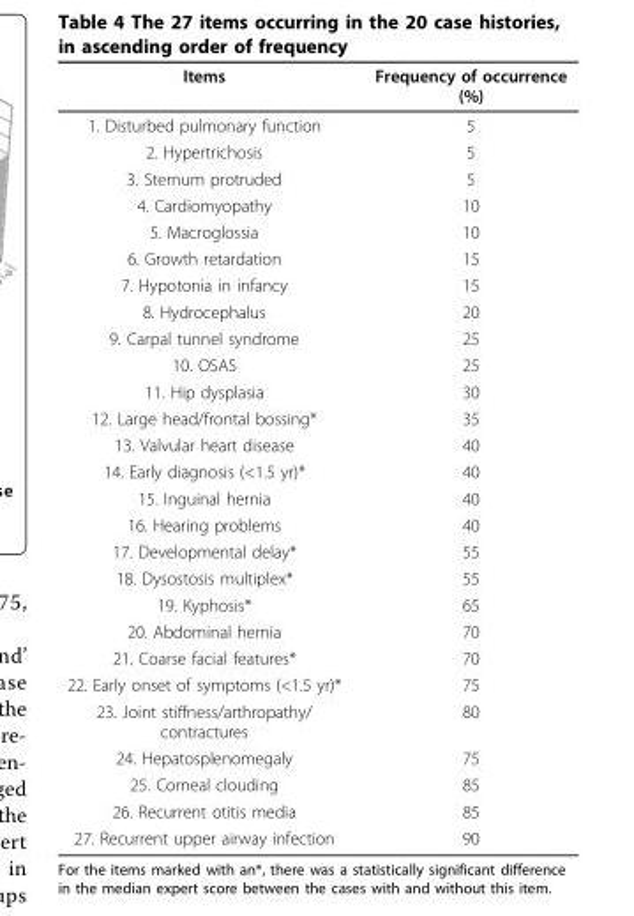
<table><thead><tr><td>Items</td><td>Frequency of occurrence (%)</td></tr></thead><tbody><tr><td>1. Disturbed pulmonary function</td><td>5</td></tr><tr><td>2. Hypertrichosis</td><td>5</td></tr><tr><td>3. Sternum protruded</td><td>5</td></tr><tr><td>4. Cardiomyopathy</td><td>10</td></tr><tr><td>5. Macroglossia</td><td>10</td></tr><tr><td>6. Growth retardation</td><td>15</td></tr><tr><td>7. Hypotonia in infancy</td><td>15</td></tr><tr><td>8. Hydrocephalus</td><td>20</td></tr><tr><td>9. Carpal tunnel syndrome</td><td>25</td></tr><tr><td>10. OSAS</td><td>25</td></tr><tr><td>11. Hip dysplasia</td><td>30</td></tr><tr><td>12. Large head/frontal bossing*</td><td>35</td></tr><tr><td>13. Valvular heart disease</td><td>40</td></tr><tr><td>14. Early diagnosis (&lt;1.5 yr)*</td><td>40</td></tr><tr><td>15. Inguinal hernia</td><td>40</td></tr><tr><td>16. Hearing problems</td><td>40</td></tr><tr><td>17. Developmental delay*</td><td>55</td></tr><tr><td>18. Dysostosis multiplex*</td><td>55</td></tr><tr><td>19. Kyphosis*</td><td>65</td></tr><tr><td>20. Abdominal hernia</td><td>70</td></tr><tr><td>21. Coarse facial features*</td><td>70</td></tr><tr><td>22. Early onset of symptoms (&lt;1.5 yr)*</td><td>75</td></tr><tr><td>23. Joint stiffness/arthropathy/ contractures</td><td>80</td></tr><tr><td>24. Hepatosplenomegaly</td><td>75</td></tr><tr><td>25. Corneal clouding</td><td>85</td></tr><tr><td>26. Recurrent otitis media</td><td>85</td></tr><tr><td>27. Recurrent upper airway infection</td><td>90</td></tr></tbody></table>